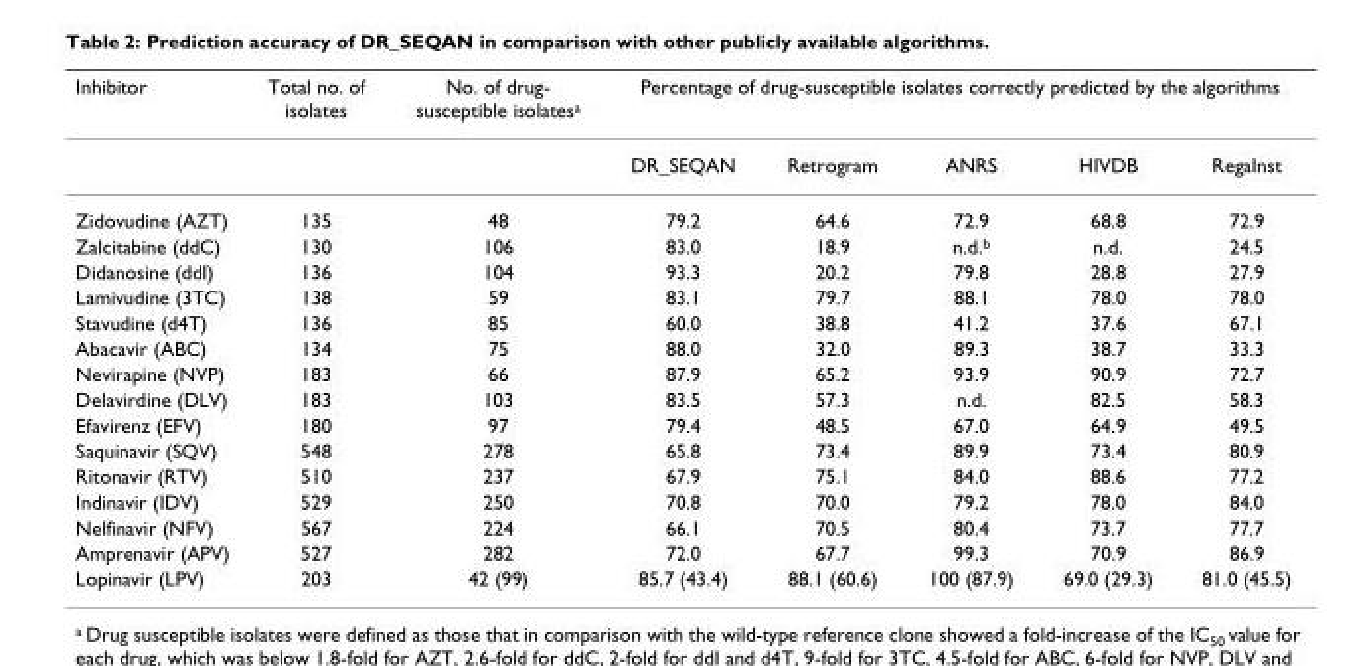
<table><thead><tr><td rowspan="2">Inhibitor</td><td rowspan="2">Total no. of isolates</td><td rowspan="2">No. of drug- susceptible isolates<sup>a</sup></td><td colspan="5">Percentage of drug-susceptible isolates correctly predicted by the algorithms</td></tr><tr><td>DR_SEQAN</td><td>Retrogram</td><td>ANRS</td><td>HIVDB</td><td>RegaInst</td></tr></thead><tbody><tr><td>Zidovudine (AZT)</td><td>135</td><td>48</td><td>79.2</td><td>64.6</td><td>72.9</td><td>68.8</td><td>72.9</td></tr><tr><td>Zalcitabine (ddC)</td><td>130</td><td>106</td><td>83.0</td><td>18.9</td><td>n.d.<sup>b</sup></td><td>n.d.</td><td>24.5</td></tr><tr><td>Didanosine (ddI)</td><td>136</td><td>104</td><td>93.3</td><td>20.2</td><td>79.8</td><td>28.8</td><td>27.9</td></tr><tr><td>Lamivudine (3TC)</td><td>138</td><td>59</td><td>83.1</td><td>79.7</td><td>88.1</td><td>78.0</td><td>78.0</td></tr><tr><td>Stavudine (d4T)</td><td>136</td><td>85</td><td>60.0</td><td>38.8</td><td>41.2</td><td>37.6</td><td>67.1</td></tr><tr><td>Abacavir (ABC)</td><td>134</td><td>75</td><td>88.0</td><td>32.0</td><td>89.3</td><td>38.7</td><td>33.3</td></tr><tr><td>Nevirapine (NVP)</td><td>183</td><td>66</td><td>87.9</td><td>65.2</td><td>93.9</td><td>90.9</td><td>72.7</td></tr><tr><td>Delavirdine (DLV)</td><td>183</td><td>103</td><td>83.5</td><td>57.3</td><td>n.d.</td><td>82.5</td><td>58.3</td></tr><tr><td>Efavirenz (EFV)</td><td>180</td><td>97</td><td>79.4</td><td>48.5</td><td>67.0</td><td>64.9</td><td>49.5</td></tr><tr><td>Saquinavir (SQV)</td><td>548</td><td>278</td><td>65.8</td><td>73.4</td><td>89.9</td><td>73.4</td><td>80.9</td></tr><tr><td>Ritonavir (RTV)</td><td>510</td><td>237</td><td>67.9</td><td>75.1</td><td>84.0</td><td>88.6</td><td>77.2</td></tr><tr><td>Indinavir (IDV)</td><td>529</td><td>250</td><td>70.8</td><td>70.0</td><td>79.2</td><td>78.0</td><td>84.0</td></tr><tr><td>Nelfinavir (NFV)</td><td>567</td><td>224</td><td>66.1</td><td>70.5</td><td>80.4</td><td>73.7</td><td>77.7</td></tr><tr><td>Amprenavir (APV)</td><td>527</td><td>282</td><td>72.0</td><td>67.7</td><td>99.3</td><td>70.9</td><td>86.9</td></tr><tr><td>Lopinavir (LPV)</td><td>203</td><td>42 (99)</td><td>85.7 (43.4)</td><td>88.1 (60.6)</td><td>100 (87.9)</td><td>69.0 (29.3)</td><td>81.0 (45.5)</td></tr></tbody></table>